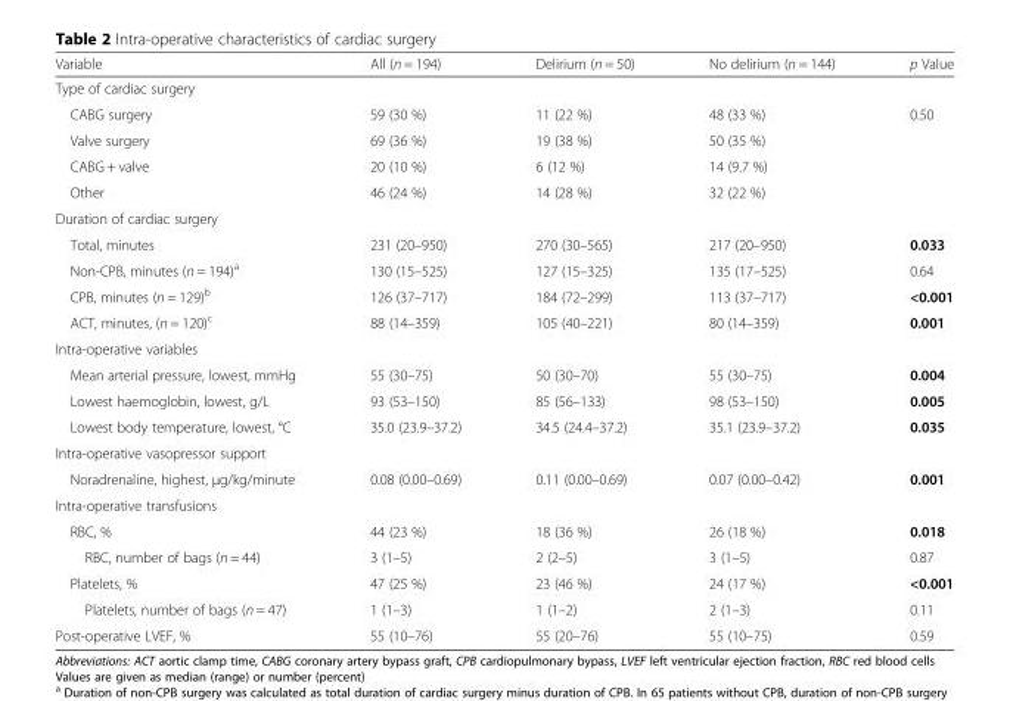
<table><thead><tr><td>Variable</td><td>All (n = 194)</td><td>Delirium (n = 50)</td><td>No delirium (n = 144)</td><td>p Value</td></tr></thead><tbody><tr><td colspan="5">Type of cardiac surgery</td></tr><tr><td>CABG surgery</td><td>59 (30 %)</td><td>11 (22 %)</td><td>48 (33 %)</td><td>0.50</td></tr><tr><td>Valve surgery</td><td>69 (36 %)</td><td>19 (38 %)</td><td>50 (35 %)</td><td></td></tr><tr><td>CABG + valve</td><td>20 (10 %)</td><td>6 (12 %)</td><td>14 (9.7 %)</td><td></td></tr><tr><td>Other</td><td>46 (24 %)</td><td>14 (28 %)</td><td>32 (22 %)</td><td></td></tr><tr><td colspan="5">Duration of cardiac surgery</td></tr><tr><td>Total, minutes</td><td>231 (20–950)</td><td>270 (30–565)</td><td>217 (20–950)</td><td>0.033</td></tr><tr><td>Non-CPB, minutes (n = 194)<sup>a</sup></td><td>130 (15–525)</td><td>127 (15–325)</td><td>135 (17–525)</td><td>0.64</td></tr><tr><td>CPB, minutes (n = 129)<sup>b</sup></td><td>126 (37–717)</td><td>184 (72–299)</td><td>113 (37–717)</td><td>&lt;0.001</td></tr><tr><td>ACT, minutes, (n = 120)<sup>c</sup></td><td>88 (14–359)</td><td>105 (40–221)</td><td>80 (14–359)</td><td>0.001</td></tr><tr><td colspan="5">Intra-operative variables</td></tr><tr><td>Mean arterial pressure, lowest, mmHg</td><td>55 (30–75)</td><td>50 (30–70)</td><td>55 (30–75)</td><td>0.004</td></tr><tr><td>Lowest haemoglobin, lowest, g/L</td><td>93 (53–150)</td><td>85 (56–133)</td><td>98 (53–150)</td><td>0.005</td></tr><tr><td>Lowest body temperature, lowest, °C</td><td>35.0 (23.9–37.2)</td><td>34.5 (24.4–37.2)</td><td>35.1 (23.9–37.2)</td><td>0.035</td></tr><tr><td colspan="5">Intra-operative vasopressor support</td></tr><tr><td>Noradrenaline, highest, μg/kg/minute</td><td>0.08 (0.00–0.69)</td><td>0.11 (0.00–0.69)</td><td>0.07 (0.00–0.42)</td><td>0.001</td></tr><tr><td colspan="5">Intra-operative transfusions</td></tr><tr><td>RBC, %</td><td>44 (23 %)</td><td>18 (36 %)</td><td>26 (18 %)</td><td>0.018</td></tr><tr><td>RBC, number of bags (n = 44)</td><td>3 (1–5)</td><td>2 (2–5)</td><td>3 (1–5)</td><td>0.87</td></tr><tr><td>Platelets, %</td><td>47 (25 %)</td><td>23 (46 %)</td><td>24 (17 %)</td><td>&lt;0.001</td></tr><tr><td>Platelets, number of bags (n = 47)</td><td>1 (1–3)</td><td>1 (1–2)</td><td>2 (1–3)</td><td>0.11</td></tr><tr><td>Post-operative LVEF, %</td><td>55 (10–76)</td><td>55 (20–76)</td><td>55 (10–75)</td><td>0.59</td></tr></tbody></table>